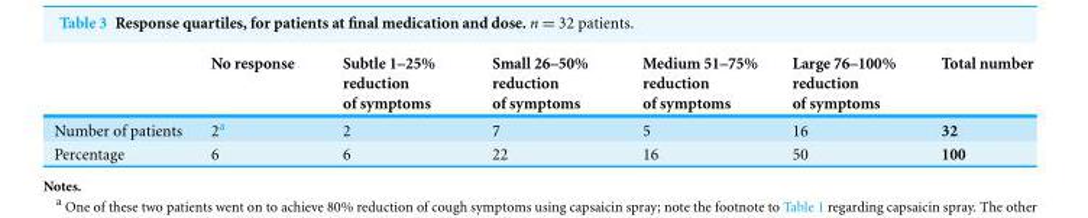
<table><thead><tr><td></td><td>No response</td><td>Subtle 1–25% reduction of symptoms</td><td>Small 26–50% reduction of symptoms</td><td>Medium 51–75% reduction of symptoms</td><td>Large 76–100% reduction of symptoms</td><td>Total number</td></tr></thead><tbody><tr><td>Number of patients</td><td>2<sup>a</sup></td><td>2</td><td>7</td><td>5</td><td>16</td><td>32</td></tr><tr><td>Percentage</td><td>6</td><td>6</td><td>22</td><td>16</td><td>50</td><td>100</td></tr></tbody></table>